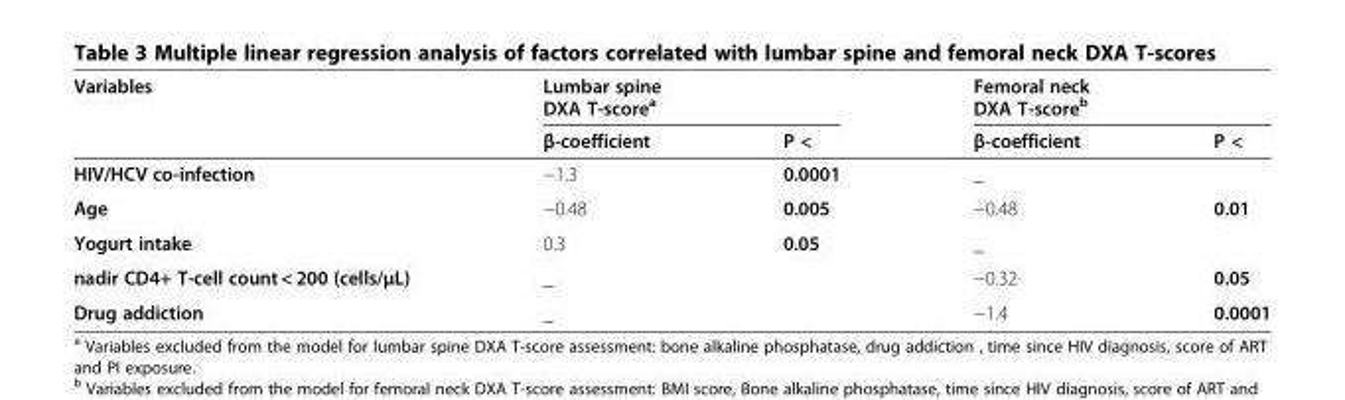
<table><thead><tr><td rowspan="2">Variables</td><td colspan="2">Lumbar spine DXA T-score<sup>a</sup></td><td colspan="2">Femoral neck DXA T-score<sup>b</sup></td></tr><tr><td>β-coefficient</td><td>P &lt;</td><td>β-coefficient</td><td>P &lt;</td></tr></thead><tbody><tr><td>HIV/HCV co-infection</td><td>−1.3</td><td>0.0001</td><td>_</td><td></td></tr><tr><td>Age</td><td>−0.48</td><td>0.005</td><td>−0.48</td><td>0.01</td></tr><tr><td>Yogurt intake</td><td>0.3</td><td>0.05</td><td>_</td><td></td></tr><tr><td>nadir CD4+ T-cell count &lt; 200 (cells/μL)</td><td>_</td><td></td><td>−0.32</td><td>0.05</td></tr><tr><td>Drug addiction</td><td>_</td><td></td><td>−1.4</td><td>0.0001</td></tr></tbody></table>